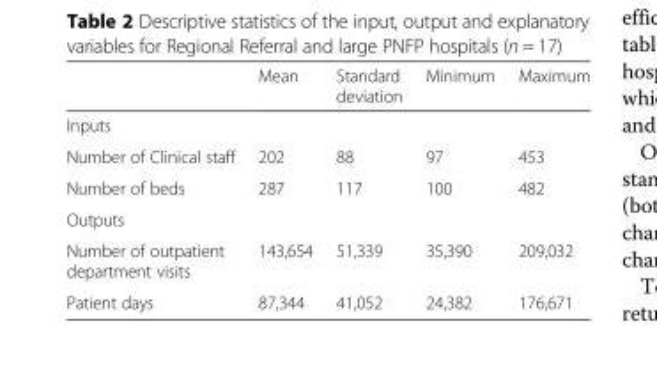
<table><thead><tr><td></td><td>Mean</td><td>Standard deviation</td><td>Minimum</td><td>Maximum</td></tr></thead><tbody><tr><td colspan="5">Inputs</td></tr><tr><td>Number of Clinical staff</td><td>202</td><td>88</td><td>97</td><td>453</td></tr><tr><td>Number of beds</td><td>287</td><td>117</td><td>100</td><td>482</td></tr><tr><td colspan="5">Outputs</td></tr><tr><td>Number of outpatient department visits</td><td>143,654</td><td>51,339</td><td>35,390</td><td>209,032</td></tr><tr><td>Patient days</td><td>87,344</td><td>41,052</td><td>24,382</td><td>176,671</td></tr></tbody></table>